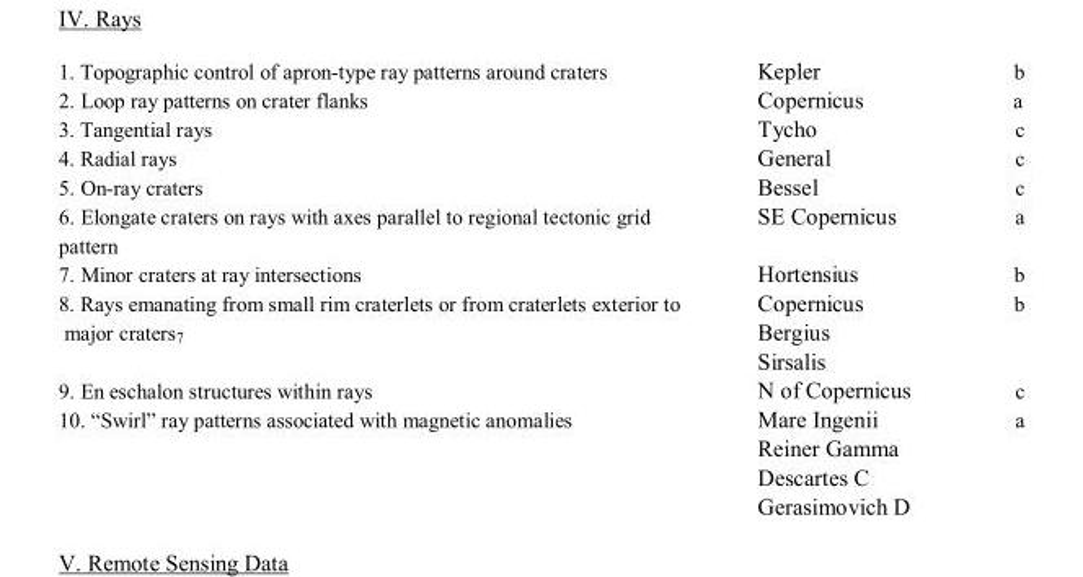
<table><tbody><tr><td>1. Topographic control of apron-type ray patterns around craters</td><td>Kepler</td><td>b</td></tr><tr><td>2. Loop ray patterns on crater flanks</td><td>Copernicus</td><td>a</td></tr><tr><td>3. Tangential rays</td><td>Tycho</td><td>c</td></tr><tr><td>4. Radial rays</td><td>General</td><td>c</td></tr><tr><td>5. On-ray craters</td><td>Bessel</td><td>c</td></tr><tr><td>6. Elongate craters on rays with axes parallel to regional tectonic grid pattern</td><td>SE Copernicus</td><td>a</td></tr><tr><td>7. Minor craters at ray intersections</td><td>Hortensius</td><td>b</td></tr><tr><td>8. Rays emanating from small rim craterlets or from craterlets exterior to major craters<sup>7</sup></td><td>Copernicus Bergius Sirsalis</td><td>b</td></tr><tr><td>9. En eschalon structures within rays</td><td>N of Copernicus</td><td>c</td></tr><tr><td>10. “Swirl” ray patterns associated with magnetic anomalies</td><td>Mare Ingenii Reiner Gamma Descartes C Gerasimovich D</td><td>a</td></tr></tbody></table>